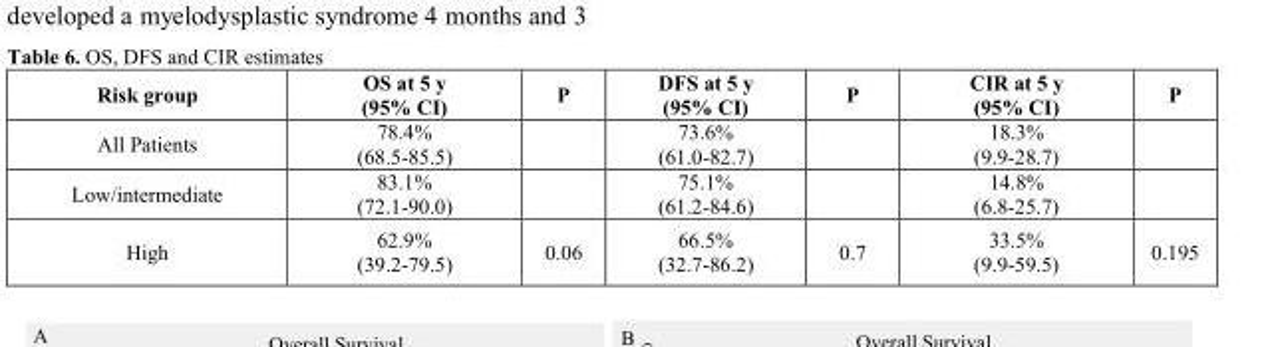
<table><thead><tr><td>Risk group</td><td>OS at 5 y (95% CI)</td><td>P</td><td>DFS at 5 y (95% CI)</td><td>P</td><td>CIR at 5 y (95% CI)</td><td>P</td></tr></thead><tbody><tr><td>All Patients</td><td>78.4% (68.5-85.5)</td><td></td><td>73.6% (61.0-82.7)</td><td></td><td>18.3% (9.9-28.7)</td><td></td></tr><tr><td>Low/intermediate</td><td>83.1% (72.1-90.0)</td><td></td><td>75.1% (61.2-84.6)</td><td></td><td>14.8% (6.8-25.7)</td><td></td></tr><tr><td>High</td><td>62.9% (39.2-79.5)</td><td>0.06</td><td>66.5% (32.7-86.2)</td><td>0.7</td><td>33.5% (9.9-59.5)</td><td>0.195</td></tr></tbody></table>